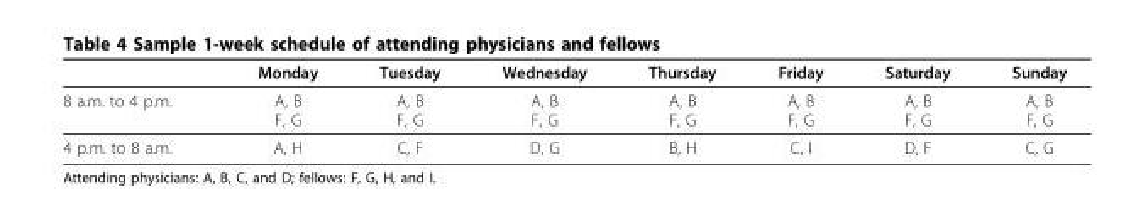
<table><thead><tr><td></td><td>Monday</td><td>Tuesday</td><td>Wednesday</td><td>Thursday</td><td>Friday</td><td>Saturday</td><td>Sunday</td></tr></thead><tbody><tr><td>8 a.m. to 4 p.m.</td><td>A, B F, G</td><td>A, B F, G</td><td>A, B F, G</td><td>A, B F, G</td><td>A, B F, G</td><td>A, B F, G</td><td>A, B F, G</td></tr><tr><td>4 p.m. to 8 a.m.</td><td>A, H</td><td>C, F</td><td>D, G</td><td>B, H</td><td>C, I</td><td>D, F</td><td>C, G</td></tr></tbody></table>